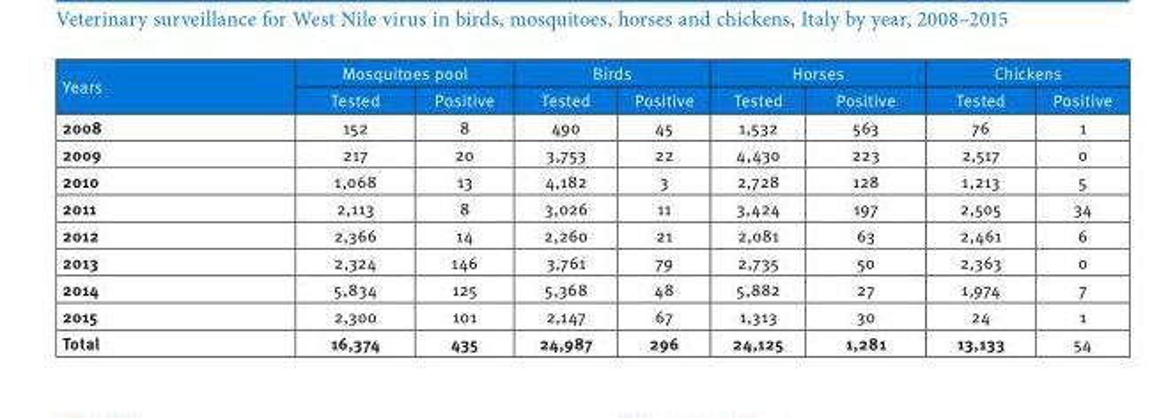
<table><thead><tr><td rowspan="2">Years</td><td colspan="2">Mosquitoes pool</td><td colspan="2">Birds</td><td colspan="2">Horses</td><td colspan="2">Chickens</td></tr><tr><td>Tested</td><td>Positive</td><td>Tested</td><td>Positive</td><td>Tested</td><td>Positive</td><td>Tested</td><td>Positive</td></tr></thead><tbody><tr><td>2008</td><td>152</td><td>8</td><td>490</td><td>45</td><td>1,532</td><td>563</td><td>76</td><td>1</td></tr><tr><td>2009</td><td>217</td><td>20</td><td>3,753</td><td>22</td><td>4,430</td><td>223</td><td>2,517</td><td>0</td></tr><tr><td>2010</td><td>1,068</td><td>13</td><td>4,182</td><td>3</td><td>2,728</td><td>128</td><td>1,213</td><td>5</td></tr><tr><td>2011</td><td>2,113</td><td>8</td><td>3,026</td><td>11</td><td>3,424</td><td>197</td><td>2,505</td><td>34</td></tr><tr><td>2012</td><td>2,366</td><td>14</td><td>2,260</td><td>21</td><td>2,081</td><td>63</td><td>2,461</td><td>6</td></tr><tr><td>2013</td><td>2,324</td><td>146</td><td>3,761</td><td>79</td><td>2,735</td><td>50</td><td>2,363</td><td>0</td></tr><tr><td>2014</td><td>5,834</td><td>125</td><td>5,368</td><td>48</td><td>5,882</td><td>27</td><td>1,974</td><td>7</td></tr><tr><td>2015</td><td>2,300</td><td>101</td><td>2,147</td><td>67</td><td>1,313</td><td>30</td><td>24</td><td>1</td></tr><tr><td>Total</td><td>16,374</td><td>435</td><td>24,987</td><td>296</td><td>24,125</td><td>1,281</td><td>13,133</td><td>54</td></tr></tbody></table>